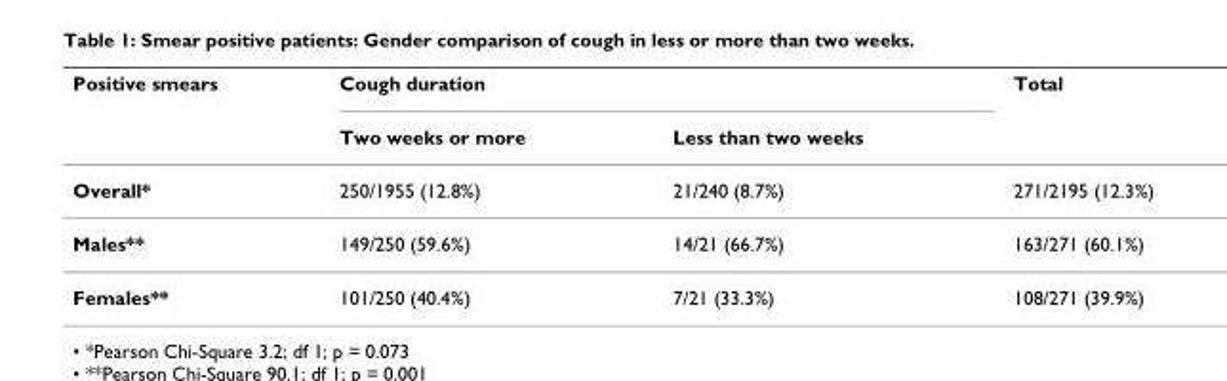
<table><thead><tr><td rowspan="2">Positive smears</td><td colspan="2">Cough duration</td><td rowspan="2">Total</td></tr><tr><td>Two weeks or more</td><td>Less than two weeks</td></tr></thead><tbody><tr><td>Overall*</td><td>250/1955 (12.8%)</td><td>21/240 (8.7%)</td><td>271/2195 (12.3%)</td></tr><tr><td>Males**</td><td>149/250 (59.6%)</td><td>14/21 (66.7%)</td><td>163/271 (60.1%)</td></tr><tr><td>Females**</td><td>101/250 (40.4%)</td><td>7/21 (33.3%)</td><td>108/271 (39.9%)</td></tr></tbody></table>